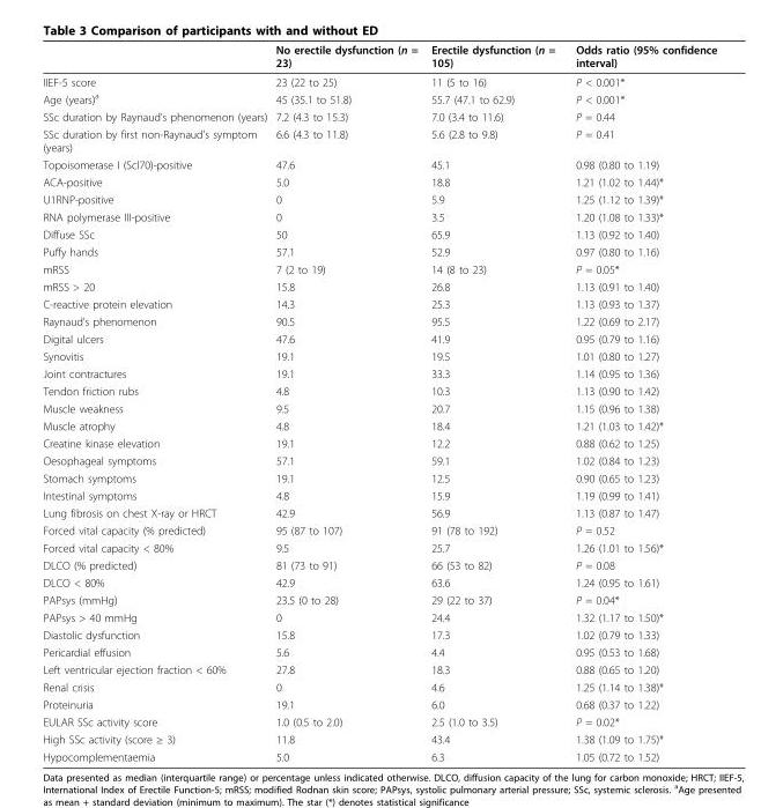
<table><thead><tr><td></td><td>No erectile dysfunction (n = 23)</td><td>Erectile dysfunction (n = 105)</td><td>Odds ratio (95% confidence interval)</td></tr></thead><tbody><tr><td>IIEF-5 score</td><td>23 (22 to 25)</td><td>11 (5 to 16)</td><td>P &lt; 0.001*</td></tr><tr><td>Age (years)<sup>a</sup></td><td>45 (35.1 to 51.8)</td><td>55.7 (47.1 to 62.9)</td><td>P &lt; 0.001*</td></tr><tr><td>SSc duration by Raynaud’s phenomenon (years)</td><td>7.2 (4.3 to 15.3)</td><td>7.0 (3.4 to 11.6)</td><td>P = 0.44</td></tr><tr><td>SSc duration by first non-Raynaud’s symptom (years)</td><td>6.6 (4.3 to 11.8)</td><td>5.6 (2.8 to 9.8)</td><td>P = 0.41</td></tr><tr><td>Topoisomerase I (Scl70)-positive</td><td>47.6</td><td>45.1</td><td>0.98 (0.80 to 1.19)</td></tr><tr><td>ACA-positive</td><td>5.0</td><td>18.8</td><td>1.21 (1.02 to 1.44)*</td></tr><tr><td>U1RNP-positive</td><td>0</td><td>5.9</td><td>1.25 (1.12 to 1.39)*</td></tr><tr><td>RNA polymerase III-positive</td><td>0</td><td>3.5</td><td>1.20 (1.08 to 1.33)*</td></tr><tr><td>Diffuse SSc</td><td>50</td><td>65.9</td><td>1.13 (0.92 to 1.40)</td></tr><tr><td>Puffy hands</td><td>57.1</td><td>52.9</td><td>0.97 (0.80 to 1.16)</td></tr><tr><td>mRSS</td><td>7 (2 to 19)</td><td>14 (8 to 23)</td><td>P = 0.05*</td></tr><tr><td>mRSS &gt; 20</td><td>15.8</td><td>26.8</td><td>1.13 (0.91 to 1.40)</td></tr><tr><td>C-reactive protein elevation</td><td>14.3</td><td>25.3</td><td>1.13 (0.93 to 1.37)</td></tr><tr><td>Raynaud’s phenomenon</td><td>90.5</td><td>95.5</td><td>1.22 (0.69 to 2.17)</td></tr><tr><td>Digital ulcers</td><td>47.6</td><td>41.9</td><td>0.95 (0.79 to 1.16)</td></tr><tr><td>Synovitis</td><td>19.1</td><td>19.5</td><td>1.01 (0.80 to 1.27)</td></tr><tr><td>Joint contractures</td><td>19.1</td><td>33.3</td><td>1.14 (0.95 to 1.36)</td></tr><tr><td>Tendon friction rubs</td><td>4.8</td><td>10.3</td><td>1.13 (0.90 to 1.42)</td></tr><tr><td>Muscle weakness</td><td>9.5</td><td>20.7</td><td>1.15 (0.96 to 1.38)</td></tr><tr><td>Muscle atrophy</td><td>4.8</td><td>18.4</td><td>1.21 (1.03 to 1.42)*</td></tr><tr><td>Creatine kinase elevation</td><td>19.1</td><td>12.2</td><td>0.88 (0.62 to 1.25)</td></tr><tr><td>Oesophageal symptoms</td><td>57.1</td><td>59.1</td><td>1.02 (0.84 to 1.23)</td></tr><tr><td>Stomach symptoms</td><td>19.1</td><td>12.5</td><td>0.90 (0.65 to 1.23)</td></tr><tr><td>Intestinal symptoms</td><td>4.8</td><td>15.9</td><td>1.19 (0.99 to 1.41)</td></tr><tr><td>Lung fibrosis on chest X-ray or HRCT</td><td>42.9</td><td>56.9</td><td>1.13 (0.87 to 1.47)</td></tr><tr><td>Forced vital capacity (% predicted)</td><td>95 (87 to 107)</td><td>91 (78 to 192)</td><td>P = 0.52</td></tr><tr><td>Forced vital capacity &lt; 80%</td><td>9.5</td><td>25.7</td><td>1.26 (1.01 to 1.56)*</td></tr><tr><td>DLCO (% predicted)</td><td>81 (73 to 91)</td><td>66 (53 to 82)</td><td>P = 0.08</td></tr><tr><td>DLCO &lt; 80%</td><td>42.9</td><td>63.6</td><td>1.24 (0.95 to 1.61)</td></tr><tr><td>PAPsys (mmHg)</td><td>23.5 (0 to 28)</td><td>29 (22 to 37)</td><td>P = 0.04*</td></tr><tr><td>PAPsys &gt; 40 mmHg</td><td>0</td><td>24.4</td><td>1.32 (1.17 to 1.50)*</td></tr><tr><td>Diastolic dysfunction</td><td>15.8</td><td>17.3</td><td>1.02 (0.79 to 1.33)</td></tr><tr><td>Pericardial effusion</td><td>5.6</td><td>4.4</td><td>0.95 (0.53 to 1.68)</td></tr><tr><td>Left ventricular ejection fraction &lt; 60%</td><td>27.8</td><td>18.3</td><td>0.88 (0.65 to 1.20)</td></tr><tr><td>Renal crisis</td><td>0</td><td>4.6</td><td>1.25 (1.14 to 1.38)*</td></tr><tr><td>Proteinuria</td><td>19.1</td><td>6.0</td><td>0.68 (0.37 to 1.22)</td></tr><tr><td>EULAR SSc activity score</td><td>1.0 (0.5 to 2.0)</td><td>2.5 (1.0 to 3.5)</td><td>P = 0.02*</td></tr><tr><td>High SSc activity (score ≥ 3)</td><td>11.8</td><td>43.4</td><td>1.38 (1.09 to 1.75)*</td></tr><tr><td>Hypocomplementaemia</td><td>5.0</td><td>6.3</td><td>1.05 (0.72 to 1.52)</td></tr></tbody></table>